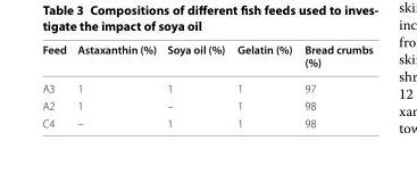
<table><thead><tr><td>Feed</td><td>Astaxanthin (%)</td><td>Soya oil (%)</td><td>Gelatin (%)</td><td>Bread crumbs (%)</td></tr></thead><tbody><tr><td>A3</td><td>1</td><td>1</td><td>1</td><td>97</td></tr><tr><td>A2</td><td>1</td><td>–</td><td>1</td><td>98</td></tr><tr><td>C4</td><td>–</td><td>1</td><td>1</td><td>98</td></tr></tbody></table>